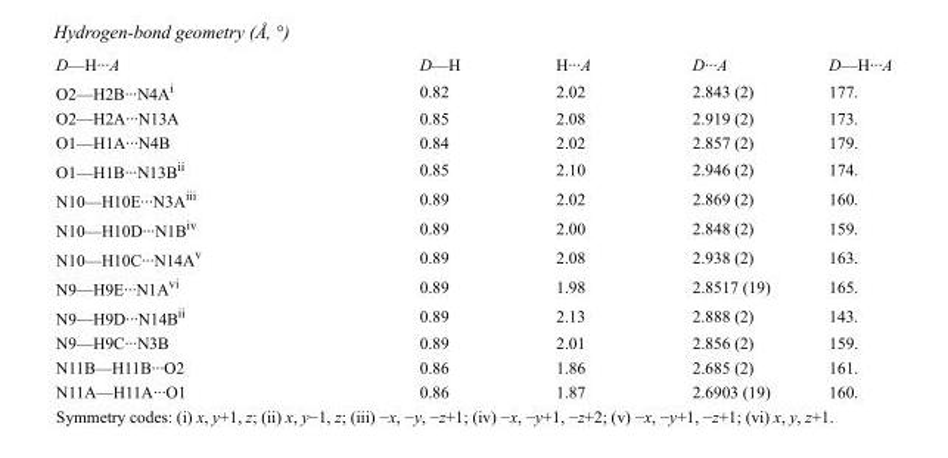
<table><tbody><tr><td>D—H···A</td><td>D—H</td><td>H···A</td><td>D···A</td><td>D—H···A</td></tr><tr><td>O2—H2B···N4A<sup>i</sup></td><td>0.82</td><td>2.02</td><td>2.843 (2)</td><td>177.</td></tr><tr><td>O2—H2A···N13A</td><td>0.85</td><td>2.08</td><td>2.919 (2)</td><td>173.</td></tr><tr><td>O1—H1A···N4B</td><td>0.84</td><td>2.02</td><td>2.857 (2)</td><td>179.</td></tr><tr><td>O1—H1B···N13B<sup>ii</sup></td><td>0.85</td><td>2.10</td><td>2.946 (2)</td><td>174.</td></tr><tr><td>N10—H10E···N3A<sup>iii</sup></td><td>0.89</td><td>2.02</td><td>2.869 (2)</td><td>160.</td></tr><tr><td>N10—H10D···N1B<sup>iv</sup></td><td>0.89</td><td>2.00</td><td>2.848 (2)</td><td>159.</td></tr><tr><td>N10—H10C···N14A<sup>v</sup></td><td>0.89</td><td>2.08</td><td>2.938 (2)</td><td>163.</td></tr><tr><td>N9—H9E···N1A<sup>vi</sup></td><td>0.89</td><td>1.98</td><td>2.8517 (19)</td><td>165.</td></tr><tr><td>N9—H9D···N14B<sup>ii</sup></td><td>0.89</td><td>2.13</td><td>2.888 (2)</td><td>143.</td></tr><tr><td>N9—H9C···N3B</td><td>0.89</td><td>2.01</td><td>2.856 (2)</td><td>159.</td></tr><tr><td>N11B—H11B···O2</td><td>0.86</td><td>1.86</td><td>2.685 (2)</td><td>161.</td></tr><tr><td>N11A—H11A···O1</td><td>0.86</td><td>1.87</td><td>2.6903 (19)</td><td>160.</td></tr></tbody></table>